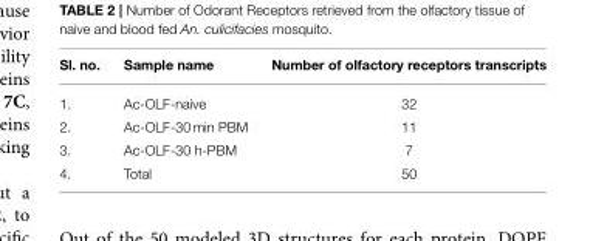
<table><thead><tr><td>Sl. no.</td><td>Sample name</td><td>Number of olfactory receptors transcripts</td></tr></thead><tbody><tr><td>1.</td><td>Ac-OLF-naive</td><td>32</td></tr><tr><td>2.</td><td>Ac-OLF-30 min PBM</td><td>11</td></tr><tr><td>3.</td><td>Ac-OLF-30 h-PBM</td><td>7</td></tr><tr><td>4.</td><td>Total</td><td>50</td></tr></tbody></table>